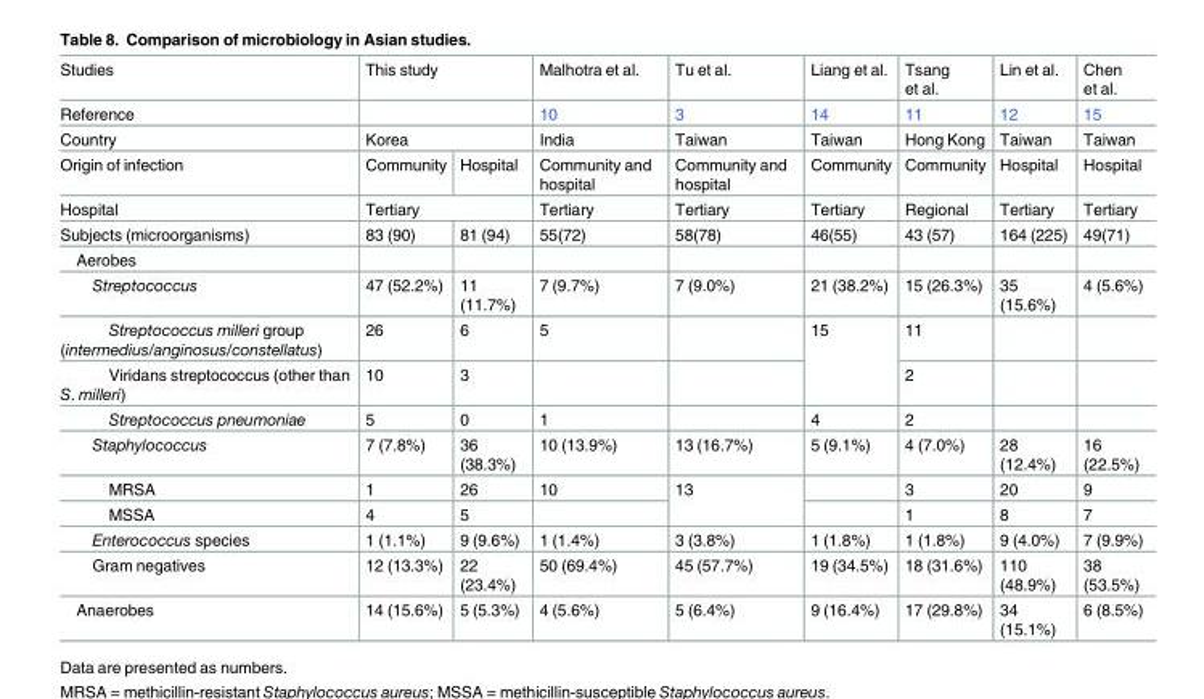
<table><tbody><tr><td>Studies</td><td colspan="2">This study</td><td>Malhotra et al.</td><td>Tu et al.</td><td>Liang et al.</td><td>Tsang et al.</td><td>Lin et al.</td><td>Chen et al.</td></tr><tr><td>Reference</td><td colspan="2"></td><td>10</td><td>3</td><td>14</td><td>11</td><td>12</td><td>15</td></tr><tr><td>Country</td><td colspan="2">Korea</td><td>India</td><td>Taiwan</td><td>Taiwan</td><td>Hong Kong</td><td>Taiwan</td><td>Taiwan</td></tr><tr><td>Origin of infection</td><td>Community</td><td>Hospital</td><td>Community and hospital</td><td>Community and hospital</td><td>Community</td><td>Community</td><td>Hospital</td><td>Hospital</td></tr><tr><td>Hospital</td><td colspan="2">Tertiary</td><td>Tertiary</td><td>Tertiary</td><td>Tertiary</td><td>Regional</td><td>Tertiary</td><td>Tertiary</td></tr><tr><td>Subjects (microorganisms)</td><td>83 (90)</td><td>81 (94)</td><td>55(72)</td><td>58(78)</td><td>46(55)</td><td>43 (57)</td><td>164 (225)</td><td>49(71)</td></tr><tr><td colspan="9">Aerobes</td></tr><tr><td>Streptococcus</td><td>47 (52.2%)</td><td>11 (11.7%)</td><td>7 (9.7%)</td><td>7 (9.0%)</td><td>21 (38.2%)</td><td>15 (26.3%)</td><td>35 (15.6%)</td><td>4 (5.6%)</td></tr><tr><td>Streptococcus milleri group (intermedius/anginosus/constellatus)</td><td>26</td><td>6</td><td>5</td><td></td><td rowspan="2">15</td><td>11</td><td></td><td></td></tr><tr><td>Viridans streptococcus (other than S. milleri)</td><td>10</td><td>3</td><td></td><td></td><td>2</td><td></td><td></td></tr><tr><td>Streptococcus pneumoniae</td><td>5</td><td>0</td><td>1</td><td></td><td>4</td><td>2</td><td></td><td></td></tr><tr><td>Staphylococcus</td><td>7 (7.8%)</td><td>36 (38.3%)</td><td>10 (13.9%)</td><td>13 (16.7%)</td><td>5 (9.1%)</td><td>4 (7.0%)</td><td>28 (12.4%)</td><td>16 (22.5%)</td></tr><tr><td>MRSA</td><td>1</td><td>26</td><td>10</td><td rowspan="2">13</td><td></td><td>3</td><td>20</td><td>9</td></tr><tr><td>MSSA</td><td>4</td><td>5</td><td></td><td></td><td>1</td><td>8</td><td>7</td></tr><tr><td>Enterococcus species</td><td>1 (1.1%)</td><td>9 (9.6%)</td><td>1 (1.4%)</td><td>3 (3.8%)</td><td>1 (1.8%)</td><td>1 (1.8%)</td><td>9 (4.0%)</td><td>7 (9.9%)</td></tr><tr><td>Gram negatives</td><td>12 (13.3%)</td><td>22 (23.4%)</td><td>50 (69.4%)</td><td>45 (57.7%)</td><td>19 (34.5%)</td><td>18 (31.6%)</td><td>110 (48.9%)</td><td>38 (53.5%)</td></tr><tr><td>Anaerobes</td><td>14 (15.6%)</td><td>5 (5.3%)</td><td>4 (5.6%)</td><td>5 (6.4%)</td><td>9 (16.4%)</td><td>17 (29.8%)</td><td>34 (15.1%)</td><td>6 (8.5%)</td></tr></tbody></table>